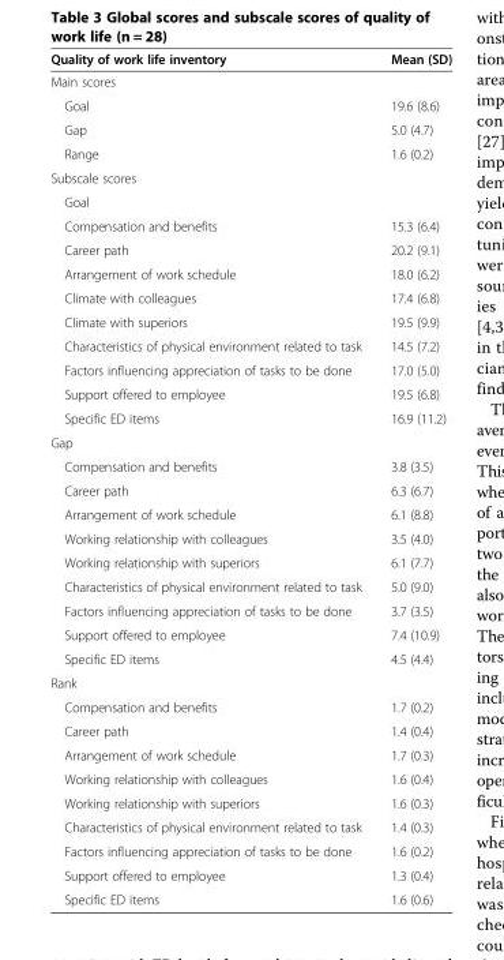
<table><thead><tr><td>Quality of work life inventory</td><td>Mean (SD)</td></tr></thead><tbody><tr><td colspan="2">Main scores</td></tr><tr><td>Goal</td><td>19.6 (8.6)</td></tr><tr><td>Gap</td><td>5.0 (4.7)</td></tr><tr><td>Range</td><td>1.6 (0.2)</td></tr><tr><td colspan="2">Subscale scores</td></tr><tr><td colspan="2">Goal</td></tr><tr><td>Compensation and benefits</td><td>15.3 (6.4)</td></tr><tr><td>Career path</td><td>20.2 (9.1)</td></tr><tr><td>Arrangement of work schedule</td><td>18.0 (6.2)</td></tr><tr><td>Climate with colleagues</td><td>17.4 (6.8)</td></tr><tr><td>Climate with superiors</td><td>19.5 (9.9)</td></tr><tr><td>Characteristics of physical environment related to task</td><td>14.5 (7.2)</td></tr><tr><td>Factors influencing appreciation of tasks to be done</td><td>17.0 (5.0)</td></tr><tr><td>Support offered to employee</td><td>19.5 (6.8)</td></tr><tr><td>Specific ED items</td><td>16.9 (11.2)</td></tr><tr><td colspan="2">Gap</td></tr><tr><td>Compensation and benefits</td><td>3.8 (3.5)</td></tr><tr><td>Career path</td><td>6.3 (6.7)</td></tr><tr><td>Arrangement of work schedule</td><td>6.1 (8.8)</td></tr><tr><td>Working relationship with colleagues</td><td>3.5 (4.0)</td></tr><tr><td>Working relationship with superiors</td><td>6.1 (7.7)</td></tr><tr><td>Characteristics of physical environment related to task</td><td>5.0 (9.0)</td></tr><tr><td>Factors influencing appreciation of tasks to be done</td><td>3.7 (3.5)</td></tr><tr><td>Support offered to employee</td><td>7.4 (10.9)</td></tr><tr><td>Specific ED items</td><td>4.5 (4.4)</td></tr><tr><td colspan="2">Rank</td></tr><tr><td>Compensation and benefits</td><td>1.7 (0.2)</td></tr><tr><td>Career path</td><td>1.4 (0.4)</td></tr><tr><td>Arrangement of work schedule</td><td>1.7 (0.3)</td></tr><tr><td>Working relationship with colleagues</td><td>1.6 (0.4)</td></tr><tr><td>Working relationship with superiors</td><td>1.6 (0.3)</td></tr><tr><td>Characteristics of physical environment related to task</td><td>1.4 (0.3)</td></tr><tr><td>Factors influencing appreciation of tasks to be done</td><td>1.6 (0.2)</td></tr><tr><td>Support offered to employee</td><td>1.3 (0.4)</td></tr><tr><td>Specific ED items</td><td>1.6 (0.6)</td></tr></tbody></table>